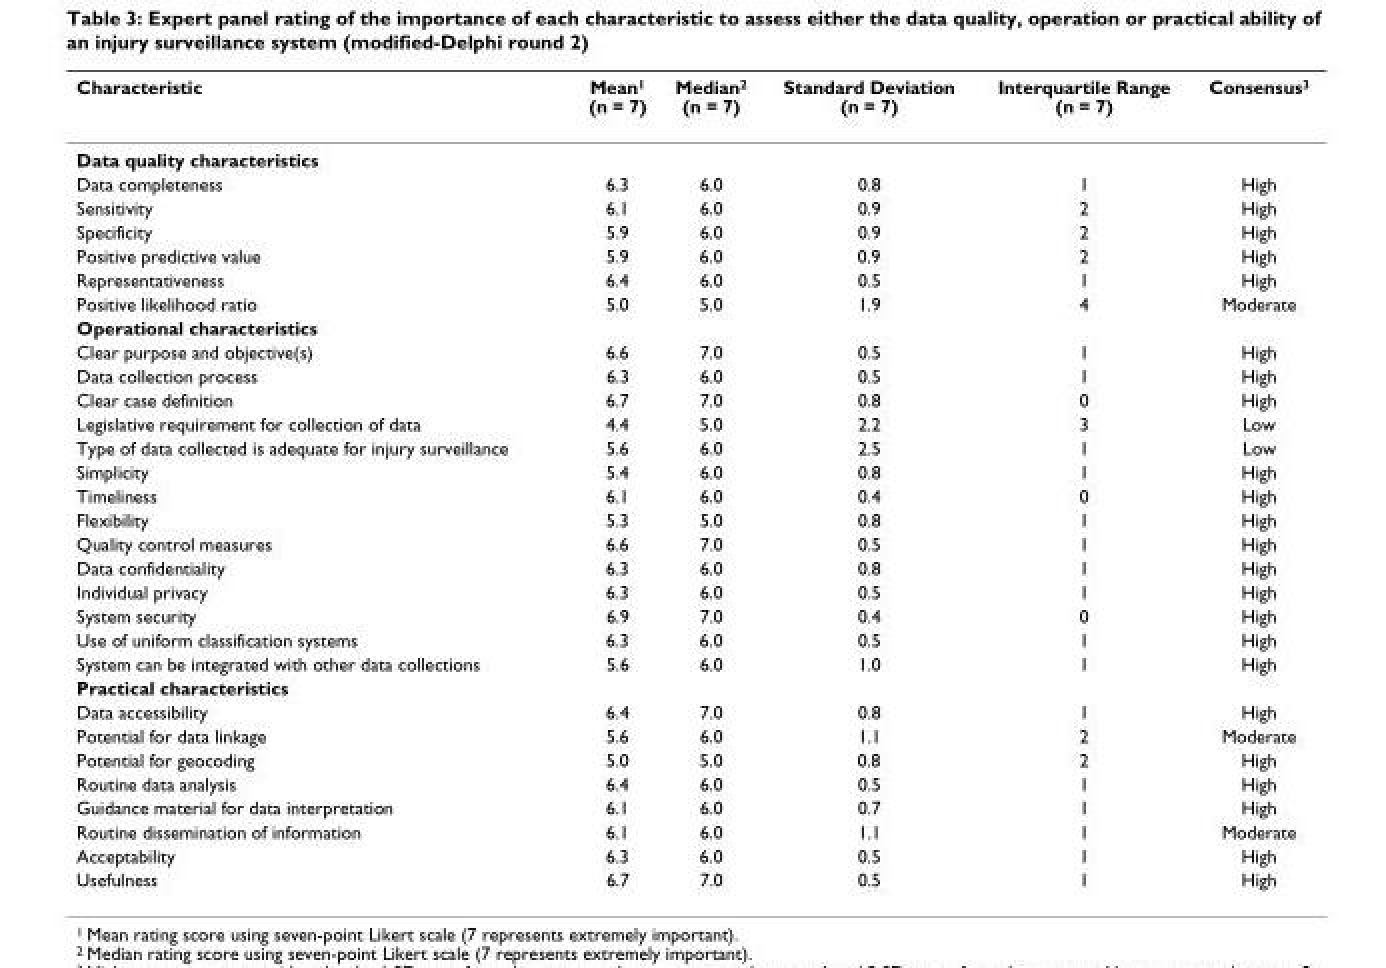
<table><thead><tr><td>Characteristic</td><td>Mean<sup>1</sup> (n = 7)</td><td>Median<sup>2</sup> (n = 7)</td><td>Standard Deviation (n = 7)</td><td>Interquartile Range (n = 7)</td><td>Consensus<sup>3</sup></td></tr></thead><tbody><tr><td colspan="6">Data quality characteristics</td></tr><tr><td>Data completeness</td><td>6.3</td><td>6.0</td><td>0.8</td><td>1</td><td>High</td></tr><tr><td>Sensitivity</td><td>6.1</td><td>6.0</td><td>0.9</td><td>2</td><td>High</td></tr><tr><td>Specificity</td><td>5.9</td><td>6.0</td><td>0.9</td><td>2</td><td>High</td></tr><tr><td>Positive predictive value</td><td>5.9</td><td>6.0</td><td>0.9</td><td>2</td><td>High</td></tr><tr><td>Representativeness</td><td>6.4</td><td>6.0</td><td>0.5</td><td>1</td><td>High</td></tr><tr><td>Positive likelihood ratio</td><td>5.0</td><td>5.0</td><td>1.9</td><td>4</td><td>Moderate</td></tr><tr><td colspan="6">Operational characteristics</td></tr><tr><td>Clear purpose and objective(s)</td><td>6.6</td><td>7.0</td><td>0.5</td><td>1</td><td>High</td></tr><tr><td>Data collection process</td><td>6.3</td><td>6.0</td><td>0.5</td><td>1</td><td>High</td></tr><tr><td>Clear case definition</td><td>6.7</td><td>7.0</td><td>0.8</td><td>0</td><td>High</td></tr><tr><td>Legislative requirement for collection of data</td><td>4.4</td><td>5.0</td><td>2.2</td><td>3</td><td>Low</td></tr><tr><td>Type of data collected is adequate for injury surveillance</td><td>5.6</td><td>6.0</td><td>2.5</td><td>1</td><td>Low</td></tr><tr><td>Simplicity</td><td>5.4</td><td>6.0</td><td>0.8</td><td>1</td><td>High</td></tr><tr><td>Timeliness</td><td>6.1</td><td>6.0</td><td>0.4</td><td>0</td><td>High</td></tr><tr><td>Flexibility</td><td>5.3</td><td>5.0</td><td>0.8</td><td>1</td><td>High</td></tr><tr><td>Quality control measures</td><td>6.6</td><td>7.0</td><td>0.5</td><td>1</td><td>High</td></tr><tr><td>Data confidentiality</td><td>6.3</td><td>6.0</td><td>0.8</td><td>1</td><td>High</td></tr><tr><td>Individual privacy</td><td>6.3</td><td>6.0</td><td>0.5</td><td>1</td><td>High</td></tr><tr><td>System security</td><td>6.9</td><td>7.0</td><td>0.4</td><td>0</td><td>High</td></tr><tr><td>Use of uniform classification systems</td><td>6.3</td><td>6.0</td><td>0.5</td><td>1</td><td>High</td></tr><tr><td>System can be integrated with other data collections</td><td>5.6</td><td>6.0</td><td>1.0</td><td>1</td><td>High</td></tr><tr><td colspan="6">Practical characteristics</td></tr><tr><td>Data accessibility</td><td>6.4</td><td>7.0</td><td>0.8</td><td>1</td><td>High</td></tr><tr><td>Potential for data linkage</td><td>5.6</td><td>6.0</td><td>1.1</td><td>2</td><td>Moderate</td></tr><tr><td>Potential for geocoding</td><td>5.0</td><td>5.0</td><td>0.8</td><td>2</td><td>High</td></tr><tr><td>Routine data analysis</td><td>6.4</td><td>6.0</td><td>0.5</td><td>1</td><td>High</td></tr><tr><td>Guidance material for data interpretation</td><td>6.1</td><td>6.0</td><td>0.7</td><td>1</td><td>High</td></tr><tr><td>Routine dissemination of information</td><td>6.1</td><td>6.0</td><td>1.1</td><td>1</td><td>Moderate</td></tr><tr><td>Acceptability</td><td>6.3</td><td>6.0</td><td>0.5</td><td>1</td><td>High</td></tr><tr><td>Usefulness</td><td>6.7</td><td>7.0</td><td>0.5</td><td>1</td><td>High</td></tr></tbody></table>